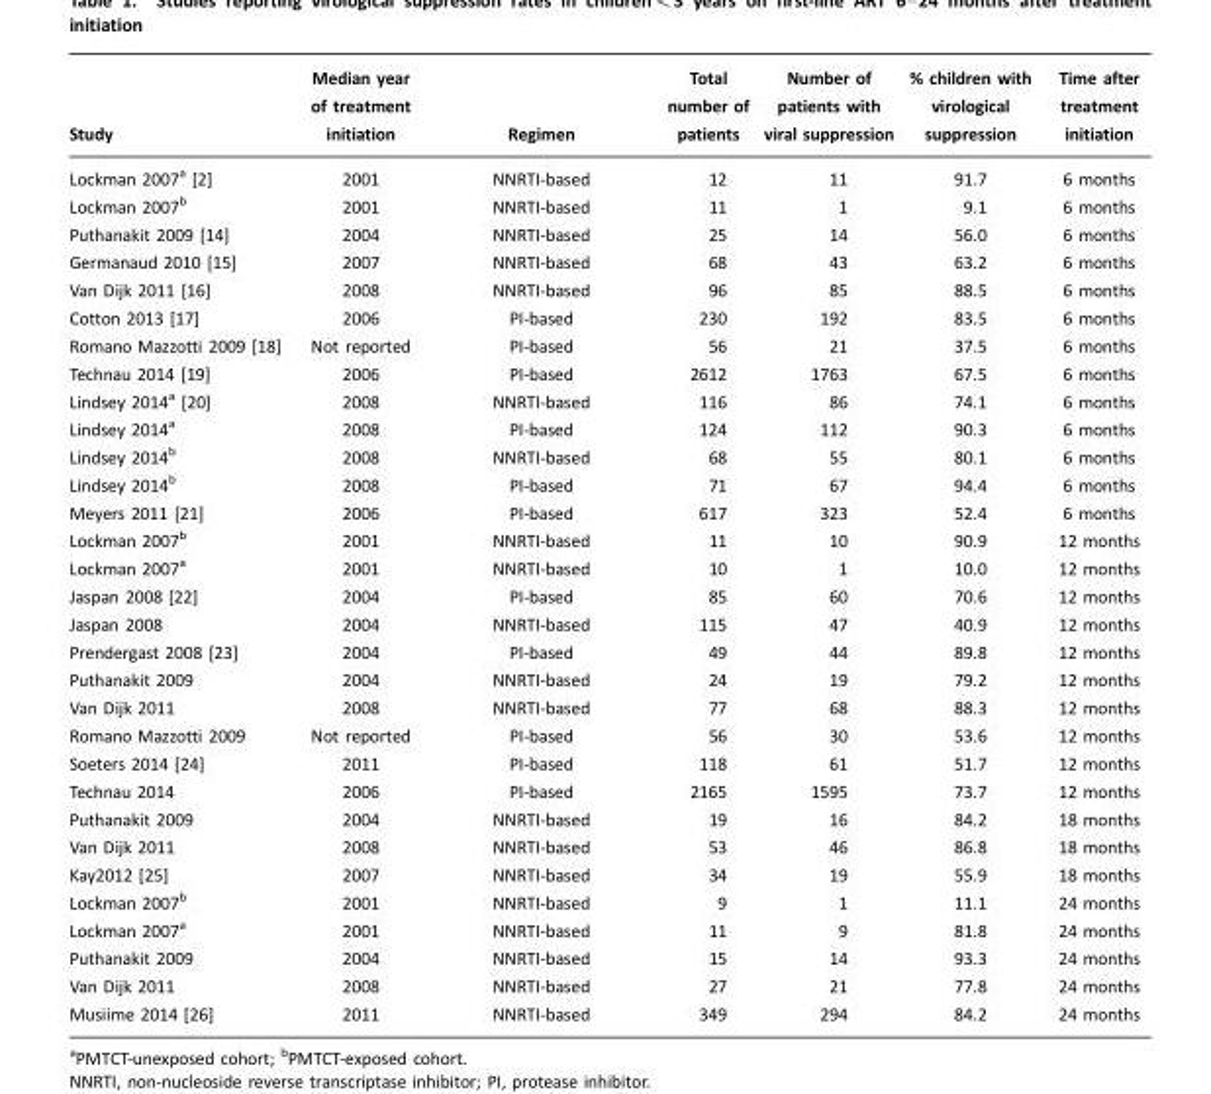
<table><thead><tr><td>Study</td><td>Median year of treatment initiation</td><td>Regimen</td><td>Total number of patients</td><td>Number of patients with viral suppression</td><td>% children with virological suppression</td><td>Time after treatment initiation</td></tr></thead><tbody><tr><td>Lockman 2007a [2]</td><td>2001</td><td>NNRTI-based</td><td>12</td><td>11</td><td>91.7</td><td>6 months</td></tr><tr><td>Lockman 2007b</td><td>2001</td><td>NNRTI-based</td><td>11</td><td>1</td><td>9.1</td><td>6 months</td></tr><tr><td>Puthanakit 2009 [14]</td><td>2004</td><td>NNRTI-based</td><td>25</td><td>14</td><td>56.0</td><td>6 months</td></tr><tr><td>Germanaud 2010 [15]</td><td>2007</td><td>NNRTI-based</td><td>68</td><td>43</td><td>63.2</td><td>6 months</td></tr><tr><td>Van Dijk 2011 [16]</td><td>2008</td><td>NNRTI-based</td><td>96</td><td>85</td><td>88.5</td><td>6 months</td></tr><tr><td>Cotton 2013 [17]</td><td>2006</td><td>PI-based</td><td>230</td><td>192</td><td>83.5</td><td>6 months</td></tr><tr><td>Romano Mazzotti 2009 [18]</td><td>Not reported</td><td>PI-based</td><td>56</td><td>21</td><td>37.5</td><td>6 months</td></tr><tr><td>Technau 2014 [19]</td><td>2006</td><td>PI-based</td><td>2612</td><td>1763</td><td>67.5</td><td>6 months</td></tr><tr><td>Lindsey 2014a [20]</td><td>2008</td><td>NNRTI-based</td><td>116</td><td>86</td><td>74.1</td><td>6 months</td></tr><tr><td>Lindsey 2014a</td><td>2008</td><td>PI-based</td><td>124</td><td>112</td><td>90.3</td><td>6 months</td></tr><tr><td>Lindsey 2014b</td><td>2008</td><td>NNRTI-based</td><td>68</td><td>55</td><td>80.1</td><td>6 months</td></tr><tr><td>Lindsey 2014b</td><td>2008</td><td>PI-based</td><td>71</td><td>67</td><td>94.4</td><td>6 months</td></tr><tr><td>Meyers 2011 [21]</td><td>2006</td><td>PI-based</td><td>617</td><td>323</td><td>52.4</td><td>6 months</td></tr><tr><td>Lockman 2007b</td><td>2001</td><td>NNRTI-based</td><td>11</td><td>10</td><td>90.9</td><td>12 months</td></tr><tr><td>Lockman 2007a</td><td>2001</td><td>NNRTI-based</td><td>10</td><td>1</td><td>10.0</td><td>12 months</td></tr><tr><td>Jaspan 2008 [22]</td><td>2004</td><td>PI-based</td><td>85</td><td>60</td><td>70.6</td><td>12 months</td></tr><tr><td>Jaspan 2008</td><td>2004</td><td>NNRTI-based</td><td>115</td><td>47</td><td>40.9</td><td>12 months</td></tr><tr><td>Prendergast 2008 [23]</td><td>2004</td><td>PI-based</td><td>49</td><td>44</td><td>89.8</td><td>12 months</td></tr><tr><td>Puthanakit 2009</td><td>2004</td><td>NNRTI-based</td><td>24</td><td>19</td><td>79.2</td><td>12 months</td></tr><tr><td>Van Dijk 2011</td><td>2008</td><td>NNRTI-based</td><td>77</td><td>68</td><td>88.3</td><td>12 months</td></tr><tr><td>Romano Mazzotti 2009</td><td>Not reported</td><td>PI-based</td><td>56</td><td>30</td><td>53.6</td><td>12 months</td></tr><tr><td>Soeters 2014 [24]</td><td>2011</td><td>PI-based</td><td>118</td><td>61</td><td>51.7</td><td>12 months</td></tr><tr><td>Technau 2014</td><td>2006</td><td>PI-based</td><td>2165</td><td>1595</td><td>73.7</td><td>12 months</td></tr><tr><td>Puthanakit 2009</td><td>2004</td><td>NNRTI-based</td><td>19</td><td>16</td><td>84.2</td><td>18 months</td></tr><tr><td>Van Dijk 2011</td><td>2008</td><td>NNRTI-based</td><td>53</td><td>46</td><td>86.8</td><td>18 months</td></tr><tr><td>Kay2012 [25]</td><td>2007</td><td>NNRTI-based</td><td>34</td><td>19</td><td>55.9</td><td>18 months</td></tr><tr><td>Lockman 2007b</td><td>2001</td><td>NNRTI-based</td><td>9</td><td>1</td><td>11.1</td><td>24 months</td></tr><tr><td>Lockman 2007a</td><td>2001</td><td>NNRTI-based</td><td>11</td><td>9</td><td>81.8</td><td>24 months</td></tr><tr><td>Puthanakit 2009</td><td>2004</td><td>NNRTI-based</td><td>15</td><td>14</td><td>93.3</td><td>24 months</td></tr><tr><td>Van Dijk 2011</td><td>2008</td><td>NNRTI-based</td><td>27</td><td>21</td><td>77.8</td><td>24 months</td></tr><tr><td>Musiime 2014 [26]</td><td>2011</td><td>NNRTI-based</td><td>349</td><td>294</td><td>84.2</td><td>24 months</td></tr></tbody></table>